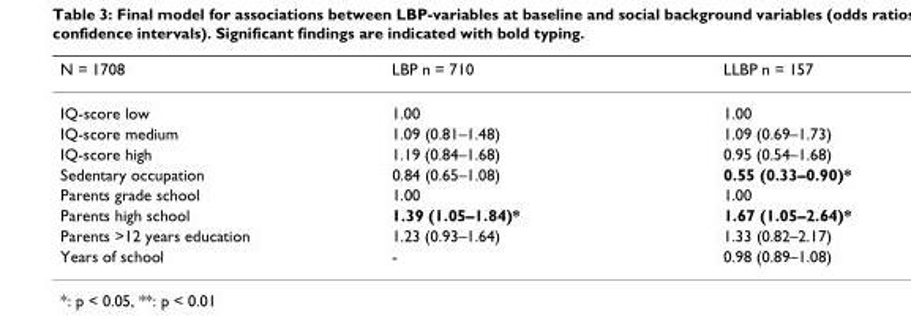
<table><thead><tr><td>N = 1708</td><td>LBP n = 710</td><td>LLBP n = 157</td></tr></thead><tbody><tr><td>IQ-score low</td><td>1.00</td><td>1.00</td></tr><tr><td>IQ-score medium</td><td>1.09 (0.81–1.48)</td><td>1.09 (0.69–1.73)</td></tr><tr><td>IQ-score high</td><td>1.19 (0.84–1.68)</td><td>0.95 (0.54–1.68)</td></tr><tr><td>Sedentary occupation</td><td>0.84 (0.65–1.08)</td><td>0.55 (0.33–0.90)*</td></tr><tr><td>Parents grade school</td><td>1.00</td><td>1.00</td></tr><tr><td>Parents high school</td><td>1.39 (1.05–1.84)*</td><td>1.67 (1.05–2.64)*</td></tr><tr><td>Parents &gt;12 years education</td><td>1.23 (0.93–1.64)</td><td>1.33 (0.82–2.17)</td></tr><tr><td>Years of school</td><td>-</td><td>0.98 (0.89–1.08)</td></tr></tbody></table>